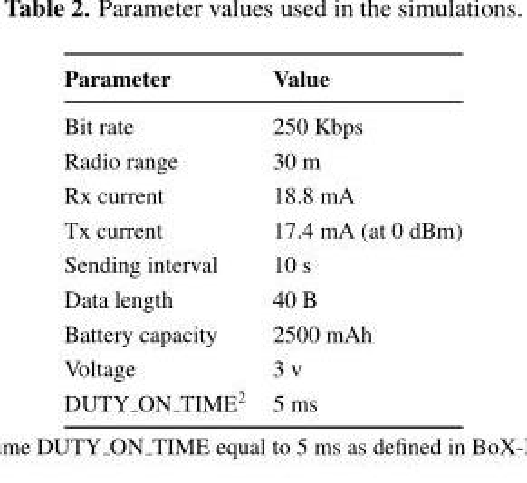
<table><thead><tr><td>Parameter</td><td>Value</td></tr></thead><tbody><tr><td>Bit rate</td><td>250 Kbps</td></tr><tr><td>Radio range</td><td>30 m</td></tr><tr><td>Rx current</td><td>18.8 mA</td></tr><tr><td>Tx current</td><td>17.4 mA (at 0 dBm)</td></tr><tr><td>Sending interval</td><td>10 s</td></tr><tr><td>Data length</td><td>40 B</td></tr><tr><td>Battery capacity</td><td>2500 mAh</td></tr><tr><td>Voltage</td><td>3 v</td></tr><tr><td>DUTY <sub>ON</sub> TIME<sup>2</sup></td><td>5 ms</td></tr></tbody></table>